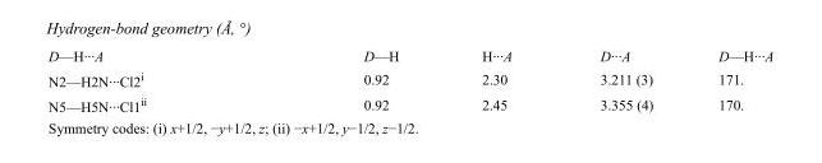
<table><tbody><tr><td>D—H···A</td><td>D—H</td><td>H···A</td><td>D···A</td><td>D—H···A</td></tr><tr><td>N2—H2N···Cl2<sup>i</sup></td><td>0.92</td><td>2.30</td><td>3.211 (3)</td><td>171.</td></tr><tr><td>N5—H5N···Cl1<sup>ii</sup></td><td>0.92</td><td>2.45</td><td>3.355 (4)</td><td>170.</td></tr></tbody></table>